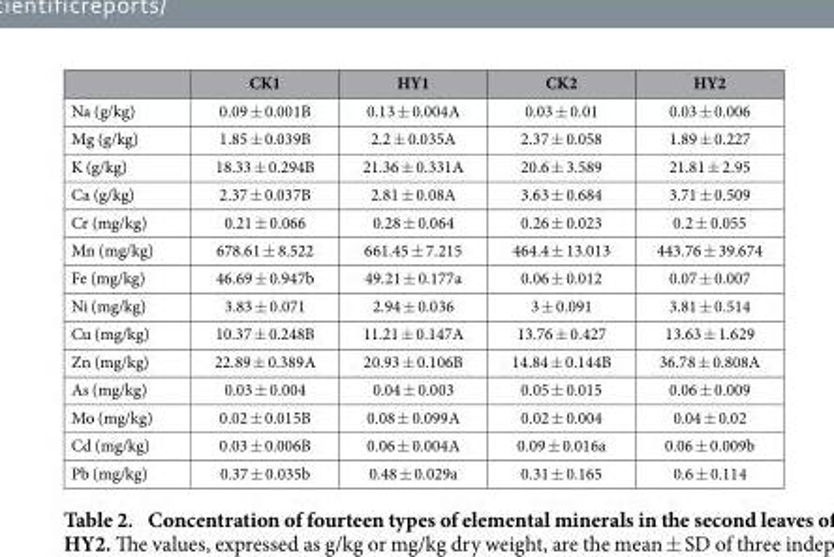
<table><thead><tr><td></td><td>CK1</td><td>HY1</td><td>CK2</td><td>HY2</td></tr></thead><tbody><tr><td>Na (g/kg)</td><td>0.09 ± 0.001B</td><td>0.13 ± 0.004A</td><td>0.03 ± 0.01</td><td>0.03 ± 0.006</td></tr><tr><td>Mg (g/kg)</td><td>1.85 ± 0.039B</td><td>2.2 ± 0.035A</td><td>2.37 ± 0.058</td><td>1.89 ± 0.227</td></tr><tr><td>K (g/kg)</td><td>18.33 ± 0.294B</td><td>21.36 ± 0.331A</td><td>20.6 ± 3.589</td><td>21.81 ± 2.95</td></tr><tr><td>Ca (g/kg)</td><td>2.37 ± 0.037B</td><td>2.81 ± 0.08A</td><td>3.63 ± 0.684</td><td>3.71 ± 0.509</td></tr><tr><td>Cr (mg/kg)</td><td>0.21 ± 0.066</td><td>0.28 ± 0.064</td><td>0.26 ± 0.023</td><td>0.2 ± 0.055</td></tr><tr><td>Mn (mg/kg)</td><td>678.61 ± 8.522</td><td>661.45 ± 7.215</td><td>464.4 ± 13.013</td><td>443.76 ± 39.674</td></tr><tr><td>Fe (mg/kg)</td><td>46.69 ± 0.947b</td><td>49.21 ± 0.177a</td><td>0.06 ± 0.012</td><td>0.07 ± 0.007</td></tr><tr><td>Ni (mg/kg)</td><td>3.83 ± 0.071</td><td>2.94 ± 0.036</td><td>3 ± 0.091</td><td>3.81 ± 0.514</td></tr><tr><td>Cu (mg/kg)</td><td>10.37 ± 0.248B</td><td>11.21 ± 0.147A</td><td>13.76 ± 0.427</td><td>13.63 ± 1.629</td></tr><tr><td>Zn (mg/kg)</td><td>22.89 ± 0.389A</td><td>20.93 ± 0.106B</td><td>14.84 ± 0.144B</td><td>36.78 ± 0.808A</td></tr><tr><td>As (mg/kg)</td><td>0.03 ± 0.004</td><td>0.04 ± 0.003</td><td>0.05 ± 0.015</td><td>0.06 ± 0.009</td></tr><tr><td>Mo (mg/kg)</td><td>0.02 ± 0.015B</td><td>0.08 ± 0.099A</td><td>0.02 ± 0.004</td><td>0.04 ± 0.02</td></tr><tr><td>Cd (mg/kg)</td><td>0.03 ± 0.006B</td><td>0.06 ± 0.004A</td><td>0.09 ± 0.016a</td><td>0.06 ± 0.009b</td></tr><tr><td>Pb (mg/kg)</td><td>0.37 ± 0.035b</td><td>0.48 ± 0.029a</td><td>0.31 ± 0.165</td><td>0.6 ± 0.114</td></tr></tbody></table>